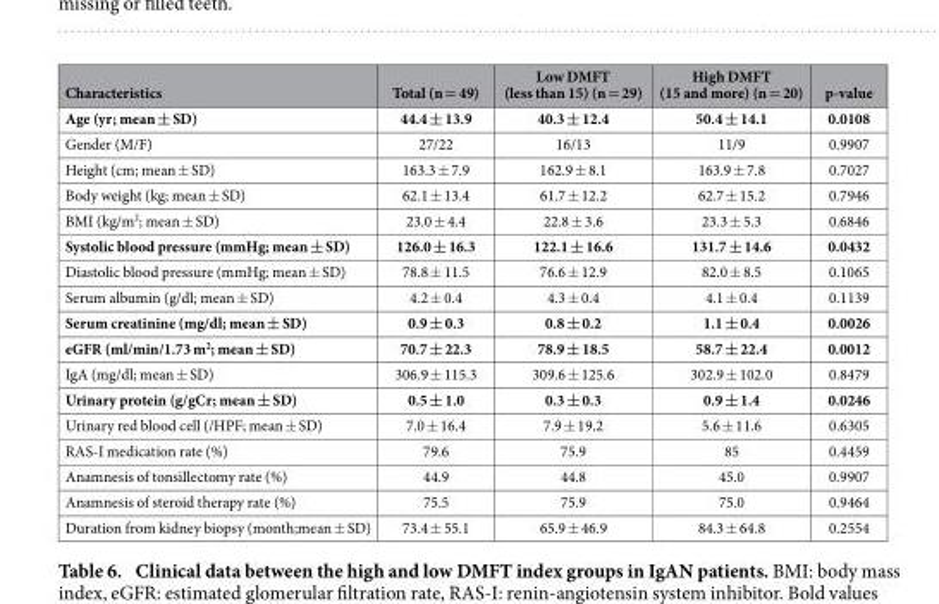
<table><thead><tr><td>Characteristics</td><td>Total (n = 49)</td><td>Low DMFT (less than 15) (n = 29)</td><td>High DMFT (15 and more) (n = 20)</td><td>p-value</td></tr></thead><tbody><tr><td>Age (yr; mean ± SD)</td><td>44.4 ± 13.9</td><td>40.3 ± 12.4</td><td>50.4 ± 14.1</td><td>0.0108</td></tr><tr><td>Gender (M/F)</td><td>27/22</td><td>16/13</td><td>11/9</td><td>0.9907</td></tr><tr><td>Height (cm; mean ± SD)</td><td>163.3 ± 7.9</td><td>162.9 ± 8.1</td><td>163.9 ± 7.8</td><td>0.7027</td></tr><tr><td>Body weight (kg; mean ± SD)</td><td>62.1 ± 13.4</td><td>61.7 ± 12.2</td><td>62.7 ± 15.2</td><td>0.7946</td></tr><tr><td>BMI (kg/m<sup>2</sup>; mean ± SD)</td><td>23.0 ± 4.4</td><td>22.8 ± 3.6</td><td>23.3 ± 5.3</td><td>0.6846</td></tr><tr><td>Systolic blood pressure (mmHg; mean ± SD)</td><td>126.0 ± 16.3</td><td>122.1 ± 16.6</td><td>131.7 ± 14.6</td><td>0.0432</td></tr><tr><td>Diastolic blood pressure (mmHg; mean ± SD)</td><td>78.8 ± 11.5</td><td>76.6 ± 12.9</td><td>82.0 ± 8.5</td><td>0.1065</td></tr><tr><td>Serum albumin (g/dl; mean ± SD)</td><td>4.2 ± 0.4</td><td>4.3 ± 0.4</td><td>4.1 ± 0.4</td><td>0.1139</td></tr><tr><td>Serum creatinine (mg/dl; mean ± SD)</td><td>0.9 ± 0.3</td><td>0.8 ± 0.2</td><td>1.1 ± 0.4</td><td>0.0026</td></tr><tr><td>eGFR (ml/min/1.73 m<sup>2</sup>; mean ± SD)</td><td>70.7 ± 22.3</td><td>78.9 ± 18.5</td><td>58.7 ± 22.4</td><td>0.0012</td></tr><tr><td>IgA (mg/dl; mean ± SD)</td><td>306.9 ± 115.3</td><td>309.6 ± 125.6</td><td>302.9 ± 102.0</td><td>0.8479</td></tr><tr><td>Urinary protein (g/gCr; mean ± SD)</td><td>0.5 ± 1.0</td><td>0.3 ± 0.3</td><td>0.9 ± 1.4</td><td>0.0246</td></tr><tr><td>Urinary red blood cell (/HPF; mean ± SD)</td><td>7.0 ± 16.4</td><td>7.9 ± 19.2</td><td>5.6 ± 11.6</td><td>0.6305</td></tr><tr><td>RAS-I medication rate (%)</td><td>79.6</td><td>75.9</td><td>85</td><td>0.4459</td></tr><tr><td>Anamnesis of tonsillectomy rate (%)</td><td>44.9</td><td>44.8</td><td>45.0</td><td>0.9907</td></tr><tr><td>Anamnesis of steroid therapy rate (%)</td><td>75.5</td><td>75.9</td><td>75.0</td><td>0.9464</td></tr><tr><td>Duration from kidney biopsy (month;mean ± SD)</td><td>73.4 ± 55.1</td><td>65.9 ± 46.9</td><td>84.3 ± 64.8</td><td>0.2554</td></tr></tbody></table>